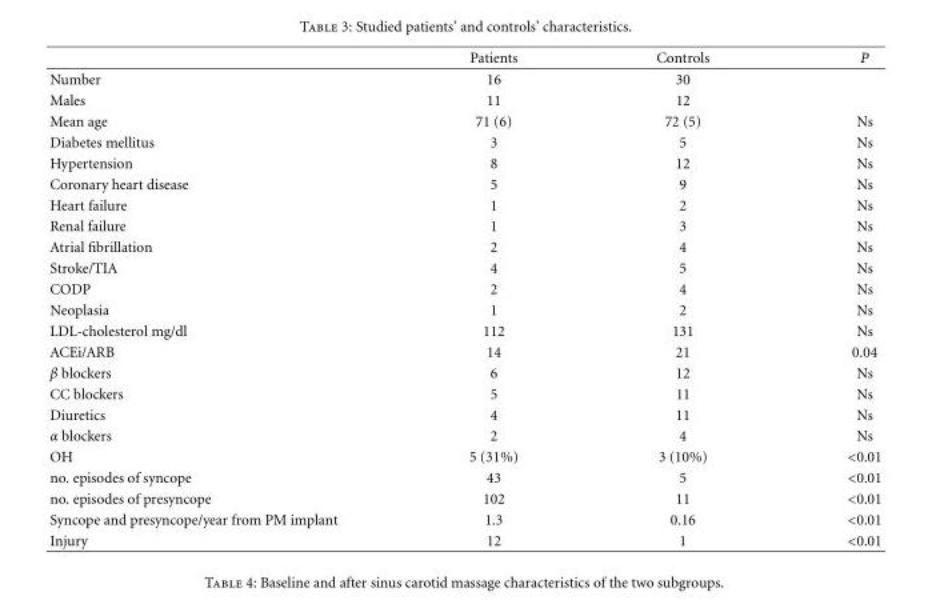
<table><thead><tr><td></td><td>Patients</td><td>Controls</td><td>P</td></tr></thead><tbody><tr><td>Number</td><td>16</td><td>30</td><td></td></tr><tr><td>Males</td><td>11</td><td>12</td><td></td></tr><tr><td>Mean age</td><td>71 (6)</td><td>72 (5)</td><td>Ns</td></tr><tr><td>Diabetes mellitus</td><td>3</td><td>5</td><td>Ns</td></tr><tr><td>Hypertension</td><td>8</td><td>12</td><td>Ns</td></tr><tr><td>Coronary heart disease</td><td>5</td><td>9</td><td>Ns</td></tr><tr><td>Heart failure</td><td>1</td><td>2</td><td>Ns</td></tr><tr><td>Renal failure</td><td>1</td><td>3</td><td>Ns</td></tr><tr><td>Atrial fibrillation</td><td>2</td><td>4</td><td>Ns</td></tr><tr><td>Stroke/TIA</td><td>4</td><td>5</td><td>Ns</td></tr><tr><td>CODP</td><td>2</td><td>4</td><td>Ns</td></tr><tr><td>Neoplasia</td><td>1</td><td>2</td><td>Ns</td></tr><tr><td>LDL-cholesterol mg/dl</td><td>112</td><td>131</td><td>Ns</td></tr><tr><td>ACEi/ARB</td><td>14</td><td>21</td><td>0.04</td></tr><tr><td>β blockers</td><td>6</td><td>12</td><td>Ns</td></tr><tr><td>CC blockers</td><td>5</td><td>11</td><td>Ns</td></tr><tr><td>Diuretics</td><td>4</td><td>11</td><td>Ns</td></tr><tr><td>α blockers</td><td>2</td><td>4</td><td>Ns</td></tr><tr><td>OH</td><td>5 (31%)</td><td>3 (10%)</td><td>&lt;0.01</td></tr><tr><td>no. episodes of syncope</td><td>43</td><td>5</td><td>&lt;0.01</td></tr><tr><td>no. episodes of presyncope</td><td>102</td><td>11</td><td>&lt;0.01</td></tr><tr><td>Syncope and presyncope/year from PM implant</td><td>1.3</td><td>0.16</td><td>&lt;0.01</td></tr><tr><td>Injury</td><td>12</td><td>1</td><td>&lt;0.01</td></tr></tbody></table>